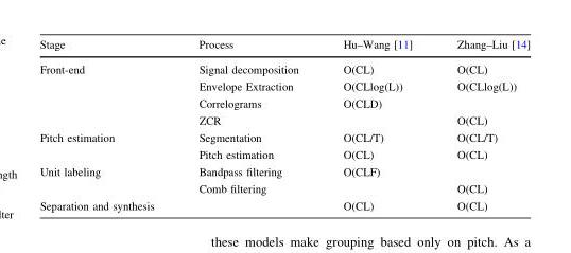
<table><thead><tr><td>Stage</td><td>Process</td><td>Hu–Wang [11]</td><td>Zhang–Liu [14]</td></tr></thead><tbody><tr><td rowspan="4">Front-end</td><td>Signal decomposition</td><td>O(CL)</td><td>O(CL)</td></tr><tr><td>Envelope Extraction</td><td>O(CLlog(L))</td><td>O(CLlog(L))</td></tr><tr><td>Correlograms</td><td>O(CLD)</td><td></td></tr><tr><td>ZCR</td><td></td><td>O(CL)</td></tr><tr><td rowspan="2">Pitch estimation</td><td>Segmentation</td><td>O(CL/T)</td><td>O(CL/T)</td></tr><tr><td>Pitch estimation</td><td>O(CL)</td><td>O(CL)</td></tr><tr><td rowspan="2">Unit labeling</td><td>Bandpass filtering</td><td>O(CLF)</td><td></td></tr><tr><td>Comb filtering</td><td></td><td>O(CL)</td></tr><tr><td>Separation and synthesis</td><td></td><td>O(CL)</td><td>O(CL)</td></tr></tbody></table>